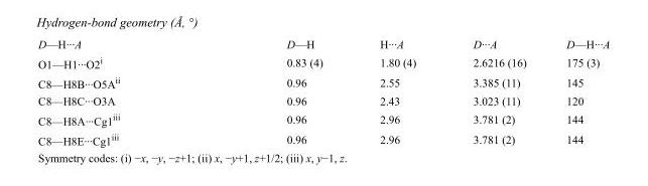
<table><tbody><tr><td>D—H···A</td><td>D—H</td><td>H···A</td><td>D···A</td><td>D—H···A</td></tr><tr><td>O1—H1···O2<sup>i</sup></td><td>0.83 (4)</td><td>1.80 (4)</td><td>2.6216 (16)</td><td>175 (3)</td></tr><tr><td>C8—H8B···O5A<sup>ii</sup></td><td>0.96</td><td>2.55</td><td>3.385 (11)</td><td>145</td></tr><tr><td>C8—H8C···O3A</td><td>0.96</td><td>2.43</td><td>3.023 (11)</td><td>120</td></tr><tr><td>C8—H8A···Cg1<sup>iii</sup></td><td>0.96</td><td>2.96</td><td>3.781 (2)</td><td>144</td></tr><tr><td>C8—H8E···Cg1<sup>iii</sup></td><td>0.96</td><td>2.96</td><td>3.781 (2)</td><td>144</td></tr></tbody></table>